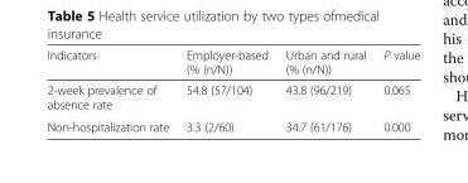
<table><thead><tr><td>Indicators</td><td>Employer-based (% (n/N))</td><td>Urban and rural (% (n/N))</td><td>P value</td></tr></thead><tbody><tr><td>2-week prevalence of absence rate</td><td>54.8 (57/104)</td><td>43.8 (96/219)</td><td>0.065</td></tr><tr><td>Non-hospitalization rate</td><td>3.3 (2/60)</td><td>34.7 (61/176)</td><td>0.000</td></tr></tbody></table>